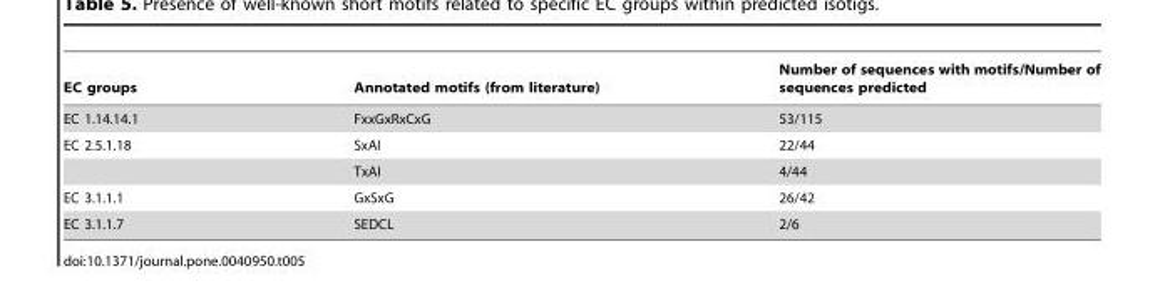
<table><thead><tr><td>EC groups</td><td>Annotated motifs (from literature)</td><td>Number of sequences with motifs/Number of sequences predicted</td></tr></thead><tbody><tr><td>EC 1.14.14.1</td><td>FxxGxRxCxG</td><td>53/115</td></tr><tr><td rowspan="2">EC 2.5.1.18</td><td>SxAI</td><td>22/44</td></tr><tr><td>TxAI</td><td>4/44</td></tr><tr><td>EC 3.1.1.1</td><td>GxSxG</td><td>26/42</td></tr><tr><td>EC 3.1.1.7</td><td>SEDCL</td><td>2/6</td></tr></tbody></table>